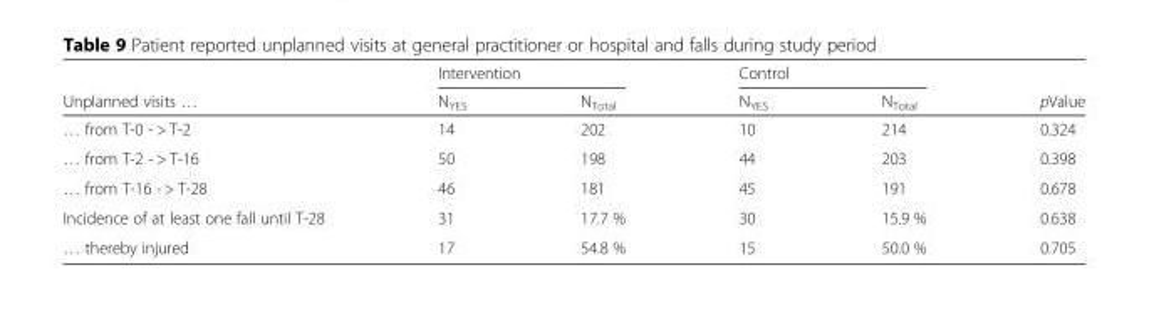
<table><thead><tr><td rowspan="2">Unplanned visits …</td><td colspan="2">Intervention</td><td colspan="2">Control</td><td rowspan="2">pValue</td></tr><tr><td>N<sub>YES</sub></td><td>N<sub>Total</sub></td><td>N<sub>YES</sub></td><td>N<sub>Total</sub></td></tr></thead><tbody><tr><td>… from T-0 - &gt; T-2</td><td>14</td><td>202</td><td>10</td><td>214</td><td>0.324</td></tr><tr><td>… from T-2 - &gt; T-16</td><td>50</td><td>198</td><td>44</td><td>203</td><td>0.398</td></tr><tr><td>… from T-16 - &gt; T-28</td><td>46</td><td>181</td><td>45</td><td>191</td><td>0.678</td></tr><tr><td>Incidence of at least one fall until T-28</td><td>31</td><td>17.7 %</td><td>30</td><td>15.9 %</td><td>0.638</td></tr><tr><td>… thereby injured</td><td>17</td><td>54.8 %</td><td>15</td><td>50.0 %</td><td>0.705</td></tr></tbody></table>